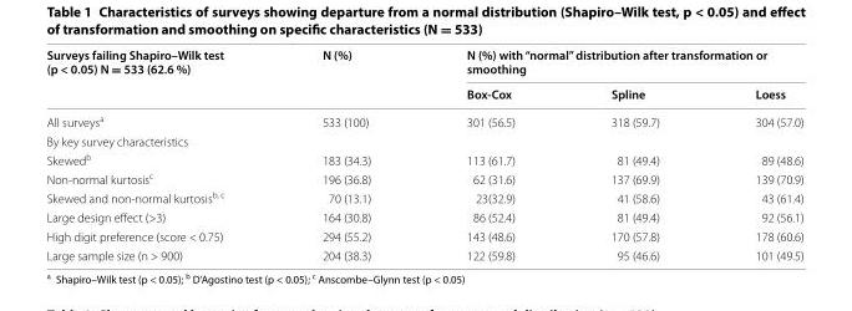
<table><thead><tr><td rowspan="2">Surveys failing Shapiro–Wilk test (p &lt; 0.05) N = 533 (62.6 %)</td><td rowspan="2">N (%)</td><td colspan="3">N (%) with “normal” distribution after transformation or smoothing</td></tr><tr><td>Box‑Cox</td><td>Spline</td><td>Loess</td></tr></thead><tbody><tr><td>All surveys<sup>a</sup></td><td>533 (100)</td><td>301 (56.5)</td><td>318 (59.7)</td><td>304 (57.0)</td></tr><tr><td colspan="5">By key survey characteristics</td></tr><tr><td>Skewed<sup>b</sup></td><td>183 (34.3)</td><td>113 (61.7)</td><td>81 (49.4)</td><td>89 (48.6)</td></tr><tr><td>Non-normal kurtosis<sup>c</sup></td><td>196 (36.8)</td><td>62 (31.6)</td><td>137 (69.9)</td><td>139 (70.9)</td></tr><tr><td>Skewed and non-normal kurtosis<sup>b, c</sup></td><td>70 (13.1)</td><td>23(32.9)</td><td>41 (58.6)</td><td>43 (61.4)</td></tr><tr><td>Large design effect (&gt;3)</td><td>164 (30.8)</td><td>86 (52.4)</td><td>81 (49.4)</td><td>92 (56.1)</td></tr><tr><td>High digit preference (score &lt; 0.75)</td><td>294 (55.2)</td><td>143 (48.6)</td><td>170 (57.8)</td><td>178 (60.6)</td></tr><tr><td>Large sample size (n &gt; 900)</td><td>204 (38.3)</td><td>122 (59.8)</td><td>95 (46.6)</td><td>101 (49.5)</td></tr></tbody></table>